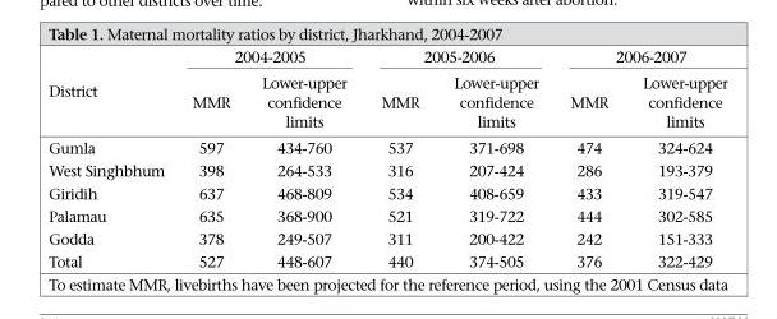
<table><thead><tr><td rowspan="2">District</td><td colspan="2">2004-2005</td><td colspan="2">2005-2006</td><td colspan="2">2006-2007</td></tr><tr><td>MMR</td><td>Lower-upper confidence limits</td><td>MMR</td><td>Lower-upper confidence limits</td><td>MMR</td><td>Lower-upper confidence limits</td></tr></thead><tbody><tr><td>Gumla</td><td>597</td><td>434-760</td><td>537</td><td>371-698</td><td>474</td><td>324-624</td></tr><tr><td>West Singhbhum</td><td>398</td><td>264-533</td><td>316</td><td>207-424</td><td>286</td><td>193-379</td></tr><tr><td>Giridih</td><td>637</td><td>468-809</td><td>534</td><td>408-659</td><td>433</td><td>319-547</td></tr><tr><td>Palamau</td><td>635</td><td>368-900</td><td>521</td><td>319-722</td><td>444</td><td>302-585</td></tr><tr><td>Godda</td><td>378</td><td>249-507</td><td>311</td><td>200-422</td><td>242</td><td>151-333</td></tr><tr><td>Total</td><td>527</td><td>448-607</td><td>440</td><td>374-505</td><td>376</td><td>322-429</td></tr></tbody></table>